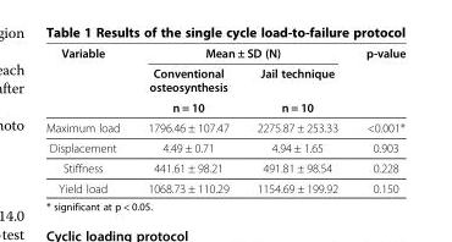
<table><thead><tr><td rowspan="3">Variable</td><td colspan="2">Mean ± SD (N)</td><td rowspan="3">p-value</td></tr><tr><td rowspan="2">Conventional osteosynthesis n = 10</td><td rowspan="2">Jail technique n = 10</td></tr><tr></tr></thead><tbody><tr><td>Maximum load</td><td>1796.46 ± 107.47</td><td>2275.87 ± 253.33</td><td>&lt;0.001*</td></tr><tr><td>Displacement</td><td>4.49 ± 0.71</td><td>4.94 ± 1.65</td><td>0.903</td></tr><tr><td>Stiffness</td><td>441.61 ± 98.21</td><td>491.81 ± 98.54</td><td>0.228</td></tr><tr><td>Yield load</td><td>1068.73 ± 110.29</td><td>1154.69 ± 199.92</td><td>0.150</td></tr></tbody></table>